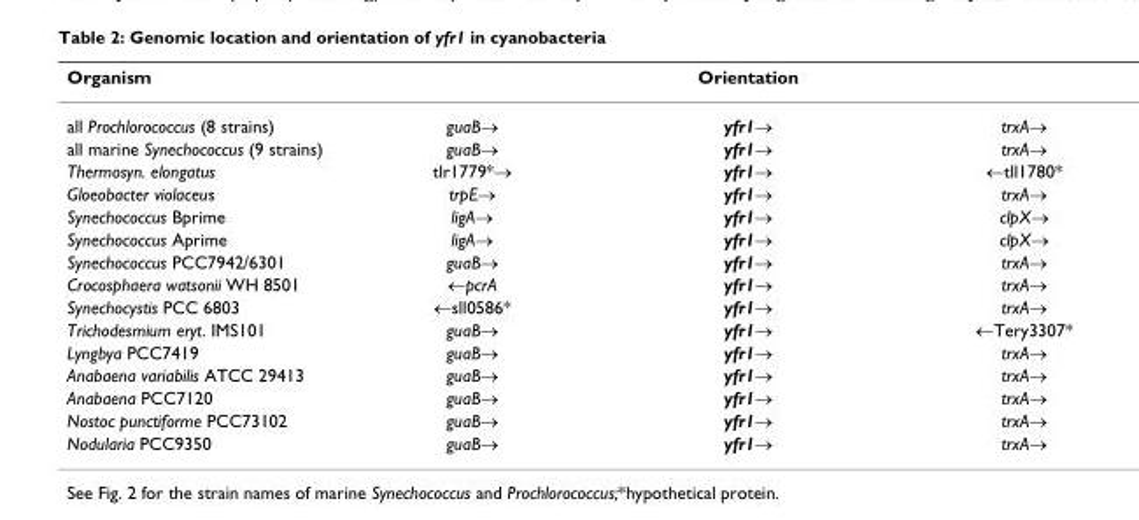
<table><thead><tr><td rowspan="2">Organism all Prochlorococcus (8 strains)</td><td colspan="3">Orientation</td></tr><tr><td>guaB→</td><td>yfr1→</td><td>trxA→</td></tr></thead><tbody><tr><td>all marine Synechococcus (9 strains)</td><td>guaB→</td><td>yfr1→</td><td>trxA→</td></tr><tr><td>Thermosyn. elongatus</td><td>tlr1779*→</td><td>yfr1→</td><td>←tll1780*</td></tr><tr><td>Gloeobacter violaceus</td><td>trpE→</td><td>yfr1→</td><td>trxA→</td></tr><tr><td>Synechococcus Bprime</td><td>ligA→</td><td>yfr1→</td><td>clpX→</td></tr><tr><td>Synechococcus Aprime</td><td>ligA→</td><td>yfr1→</td><td>clpX→</td></tr><tr><td>Synechococcus PCC7942/6301</td><td>guaB→</td><td>yfr1→</td><td>trxA→</td></tr><tr><td>Crocosphaera watsonii WH 8501</td><td>←pcrA</td><td>yfr1→</td><td>trxA→</td></tr><tr><td>Synechocystis PCC 6803</td><td>←sll0586*</td><td>yfr1→</td><td>trxA→</td></tr><tr><td>Trichodesmium eryt. IMS101</td><td>guaB→</td><td>yfr1→</td><td>←Tery3307*</td></tr><tr><td>Lyngbya PCC7419</td><td>guaB→</td><td>yfr1→</td><td>trxA→</td></tr><tr><td>Anabaena variabilis ATCC 29413</td><td>guaB→</td><td>yfr1→</td><td>trxA→</td></tr><tr><td>Anabaena PCC7120</td><td>guaB→</td><td>yfr1→</td><td>trxA→</td></tr><tr><td>Nostoc punctiforme PCC73102</td><td>guaB→</td><td>yfr1→</td><td>trxA→</td></tr><tr><td>Nodularia PCC9350</td><td>guaB→</td><td>yfr1→</td><td>trxA→</td></tr></tbody></table>